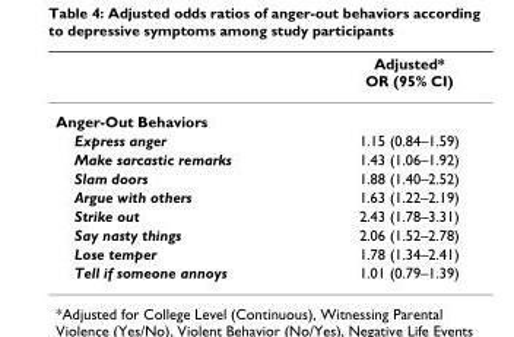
<table><thead><tr><td></td><td>Adjusted* OR (95% CI)</td></tr></thead><tbody><tr><td colspan="2">Anger-Out Behaviors</td></tr><tr><td>Express anger</td><td>1.15 (0.84–1.59)</td></tr><tr><td>Make sarcastic remarks</td><td>1.43 (1.06–1.92)</td></tr><tr><td>Slam doors</td><td>1.88 (1.40–2.52)</td></tr><tr><td>Argue with others</td><td>1.63 (1.22–2.19)</td></tr><tr><td>Strike out</td><td>2.43 (1.78–3.31)</td></tr><tr><td>Say nasty things</td><td>2.06 (1.52–2.78)</td></tr><tr><td>Lose temper</td><td>1.78 (1.34–2.41)</td></tr><tr><td>Tell if someone annoys</td><td>1.01 (0.79–1.39)</td></tr></tbody></table>